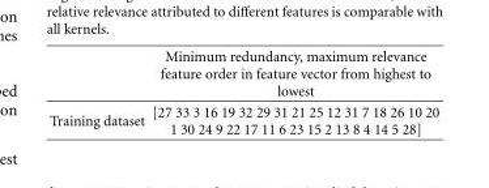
<table><thead><tr><td></td><td>Minimum redundancy, maximum relevance feature order in feature vector from highest to lowest</td></tr></thead><tbody><tr><td>Training dataset</td><td>[27 33 3 16 19 32 29 31 21 25 12 31 7 18 26 10 20 1 30 24 9 22 17 11 6 23 15 2 13 8 4 14 5 28]</td></tr></tbody></table>